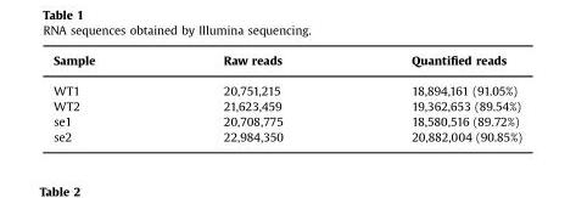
<table><thead><tr><td>Sample</td><td>Raw reads</td><td>Quantified reads</td></tr></thead><tbody><tr><td>WT1</td><td>20,751,215</td><td>18,894,161 (91.05%)</td></tr><tr><td>WT2</td><td>21,623,459</td><td>19,362,653 (89.54%)</td></tr><tr><td>se1</td><td>20,708,775</td><td>18,580,516 (89.72%)</td></tr><tr><td>se2</td><td>22,984,350</td><td>20,882,004 (90.85%)</td></tr></tbody></table>